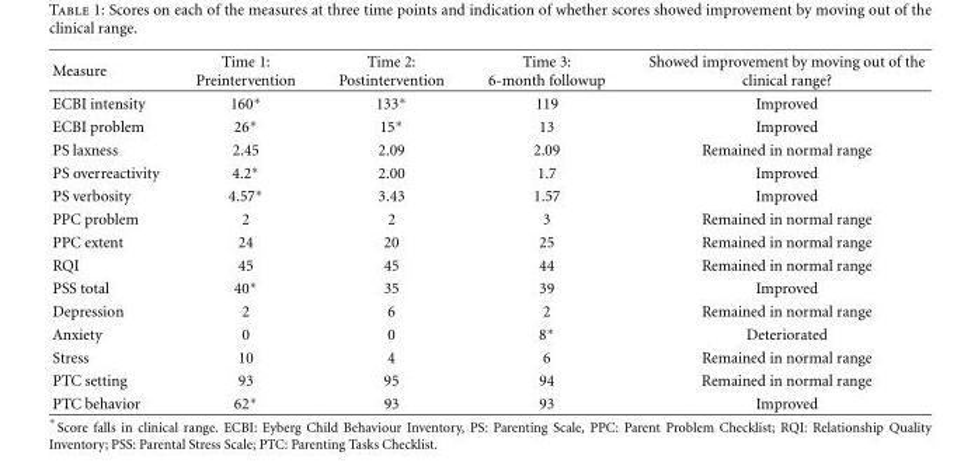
<table><thead><tr><td>Measure</td><td>Time 1: Preintervention</td><td>Time 2: Postintervention</td><td>Time 3: 6-month followup</td><td>Showed improvement by moving out of the clinical range?</td></tr></thead><tbody><tr><td>ECBI intensity</td><td>160∗</td><td>133∗</td><td>119</td><td>Improved</td></tr><tr><td>ECBI problem</td><td>26∗</td><td>15∗</td><td>13</td><td>Improved</td></tr><tr><td>PS laxness</td><td>2.45</td><td>2.09</td><td>2.09</td><td>Remained in normal range</td></tr><tr><td>PS overreactivity</td><td>4.2∗</td><td>2.00</td><td>1.7</td><td>Improved</td></tr><tr><td>PS verbosity</td><td>4.57∗</td><td>3.43</td><td>1.57</td><td>Improved</td></tr><tr><td>PPC problem</td><td>2</td><td>2</td><td>3</td><td>Remained in normal range</td></tr><tr><td>PPC extent</td><td>24</td><td>20</td><td>25</td><td>Remained in normal range</td></tr><tr><td>RQI</td><td>45</td><td>45</td><td>44</td><td>Remained in normal range</td></tr><tr><td>PSS total</td><td>40∗</td><td>35</td><td>39</td><td>Improved</td></tr><tr><td>Depression</td><td>2</td><td>6</td><td>2</td><td>Remained in normal range</td></tr><tr><td>Anxiety</td><td>0</td><td>0</td><td>8∗</td><td>Deteriorated</td></tr><tr><td>Stress</td><td>10</td><td>4</td><td>6</td><td>Remained in normal range</td></tr><tr><td>PTC setting</td><td>93</td><td>95</td><td>94</td><td>Remained in normal range</td></tr><tr><td>PTC behavior</td><td>62∗</td><td>93</td><td>93</td><td>Improved</td></tr></tbody></table>